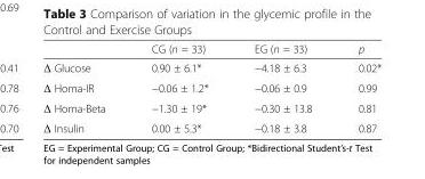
<table><thead><tr><td></td><td>CG (n = 33)</td><td>EG (n = 33)</td><td>p</td></tr></thead><tbody><tr><td>Δ Glucose</td><td>0.90 ± 6.1*</td><td>−4.18 ± 6.3</td><td>0.02*</td></tr><tr><td>Δ Homa-IR</td><td>−0.06 ± 1.2*</td><td>−0.06 ± 0.9</td><td>0.99</td></tr><tr><td>Δ Homa-Beta</td><td>−1.30 ± 19*</td><td>−0.30 ± 13.8</td><td>0.81</td></tr><tr><td>Δ Insulin</td><td>0.00 ± 5.3*</td><td>−0.18 ± 3.8</td><td>0.87</td></tr></tbody></table>